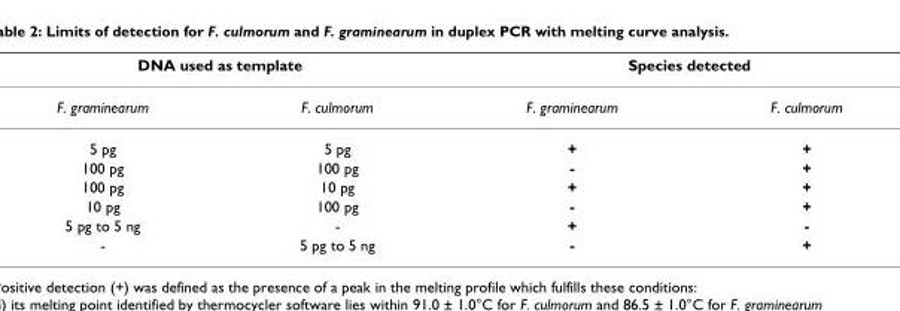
<table><thead><tr><td colspan="2">DNA used as template</td><td colspan="2">Species detected</td></tr><tr><td>F. graminearum</td><td>F. culmorum</td><td>F. graminearum</td><td>F. culmorum</td></tr></thead><tbody><tr><td>5 pg</td><td>5 pg</td><td>+</td><td>+</td></tr><tr><td>100 pg</td><td>100 pg</td><td>-</td><td>+</td></tr><tr><td>100 pg</td><td>10 pg</td><td>+</td><td>+</td></tr><tr><td>10 pg</td><td>100 pg</td><td>-</td><td>+</td></tr><tr><td>5 pg to 5 ng</td><td>-</td><td>+</td><td>-</td></tr><tr><td>-</td><td>5 pg to 5 ng</td><td>-</td><td>+</td></tr></tbody></table>